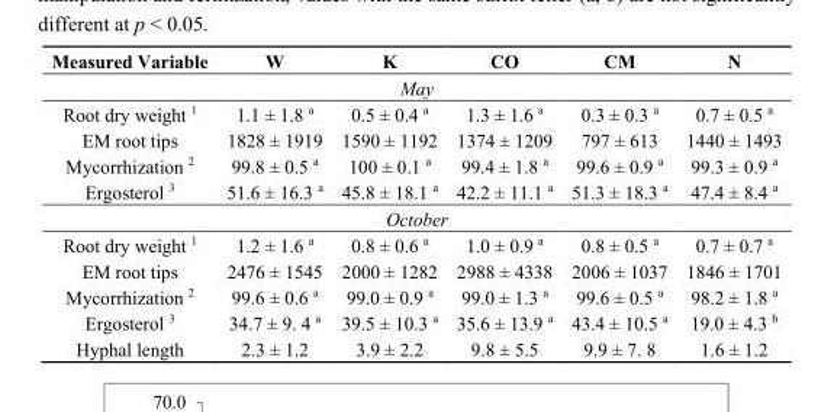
<table><thead><tr><td>Measured Variable</td><td>W</td><td>K</td><td>CO</td><td>CM</td><td>N</td></tr></thead><tbody><tr><td colspan="6">May</td></tr><tr><td>Root dry weight <sup>1</sup></td><td>1.1 ± 1.8 <sup>a</sup></td><td>0.5 ± 0.4 <sup>a</sup></td><td>1.3 ± 1.6 <sup>a</sup></td><td>0.3 ± 0.3 <sup>a</sup></td><td>0.7 ± 0.5 <sup>a</sup></td></tr><tr><td>EM root tips</td><td>1828 ± 1919</td><td>1590 ± 1192</td><td>1374 ± 1209</td><td>797 ± 613</td><td>1440 ± 1493</td></tr><tr><td>Mycorrhization <sup>2</sup></td><td>99.8 ± 0.5 <sup>a</sup></td><td>100 ± 0.1 <sup>a</sup></td><td>99.4 ± 1.8 <sup>a</sup></td><td>99.6 ± 0.9 <sup>a</sup></td><td>99.3 ± 0.9 <sup>a</sup></td></tr><tr><td>Ergosterol <sup>3</sup></td><td>51.6 ± 16.3 <sup>a</sup></td><td>45.8 ± 18.1 <sup>a</sup></td><td>42.2 ± 11.1 <sup>a</sup></td><td>51.3 ± 18.3 <sup>a</sup></td><td>47.4 ± 8.4 <sup>a</sup></td></tr><tr><td colspan="6">October</td></tr><tr><td>Root dry weight <sup>1</sup></td><td>1.2 ± 1.6 <sup>a</sup></td><td>0.8 ± 0.6 <sup>a</sup></td><td>1.0 ± 0.9 <sup>a</sup></td><td>0.8 ± 0.5 <sup>a</sup></td><td>0.7 ± 0.7 <sup>a</sup></td></tr><tr><td>EM root tips</td><td>2476 ± 1545</td><td>2000 ± 1282</td><td>2988 ± 4338</td><td>2006 ± 1037</td><td>1846 ± 1701</td></tr><tr><td>Mycorrhization <sup>2</sup></td><td>99.6 ± 0.6 <sup>a</sup></td><td>99.0 ± 0.9 <sup>a</sup></td><td>99.0 ± 1.3 <sup>a</sup></td><td>99.6 ± 0.5 <sup>a</sup></td><td>98.2 ± 1.8 <sup>a</sup></td></tr><tr><td>Ergosterol <sup>3</sup></td><td>34.7 ± 9. 4 <sup>a</sup></td><td>39.5 ± 10.3 <sup>a</sup></td><td>35.6 ± 13.9 <sup>a</sup></td><td>43.4 ± 10.5 <sup>a</sup></td><td>19.0 ± 4.3 <sup>b</sup></td></tr><tr><td>Hyphal length</td><td>2.3 ± 1.2</td><td>3.9 ± 2.2</td><td>9.8 ± 5.5</td><td>9.9 ± 7. 8</td><td>1.6 ± 1.2</td></tr></tbody></table>